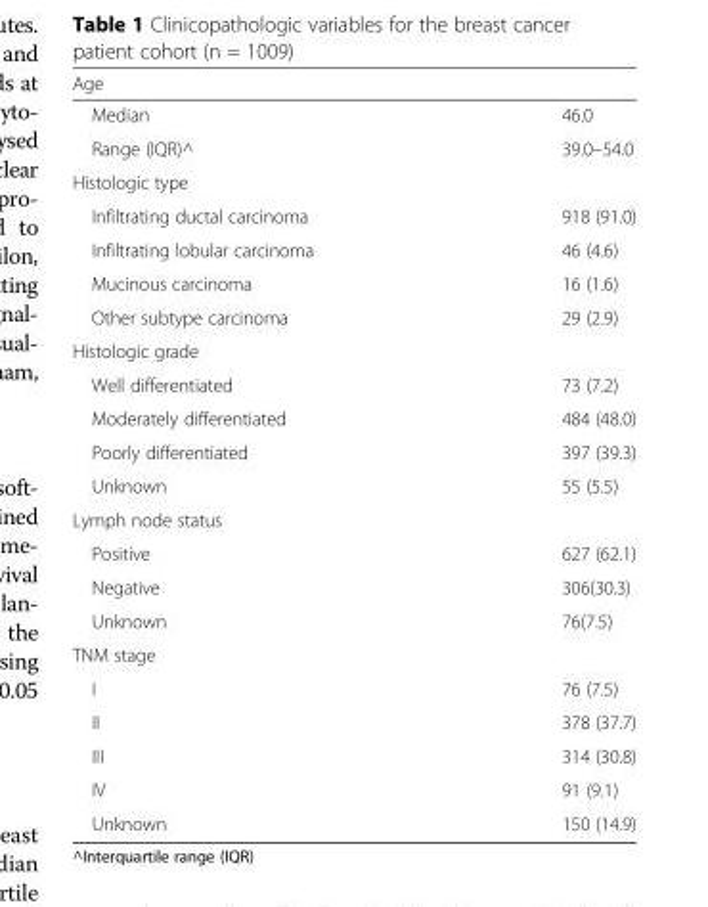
<table><thead><tr><td>Age</td><td></td></tr></thead><tbody><tr><td>Median</td><td>46.0</td></tr><tr><td>Range (IQR)^</td><td>39.0–54.0</td></tr><tr><td colspan="2">Histologic type</td></tr><tr><td>Infiltrating ductal carcinoma</td><td>918 (91.0)</td></tr><tr><td>Infiltrating lobular carcinoma</td><td>46 (4.6)</td></tr><tr><td>Mucinous carcinoma</td><td>16 (1.6)</td></tr><tr><td>Other subtype carcinoma</td><td>29 (2.9)</td></tr><tr><td colspan="2">Histologic grade</td></tr><tr><td>Well differentiated</td><td>73 (7.2)</td></tr><tr><td>Moderately differentiated</td><td>484 (48.0)</td></tr><tr><td>Poorly differentiated</td><td>397 (39.3)</td></tr><tr><td>Unknown</td><td>55 (5.5)</td></tr><tr><td colspan="2">Lymph node status</td></tr><tr><td>Positive</td><td>627 (62.1)</td></tr><tr><td>Negative</td><td>306(30.3)</td></tr><tr><td>Unknown</td><td>76(7.5)</td></tr><tr><td colspan="2">TNM stage</td></tr><tr><td>I</td><td>76 (7.5)</td></tr><tr><td>II</td><td>378 (37.7)</td></tr><tr><td>III</td><td>314 (30.8)</td></tr><tr><td>IV</td><td>91 (9.1)</td></tr><tr><td>Unknown</td><td>150 (14.9)</td></tr></tbody></table>